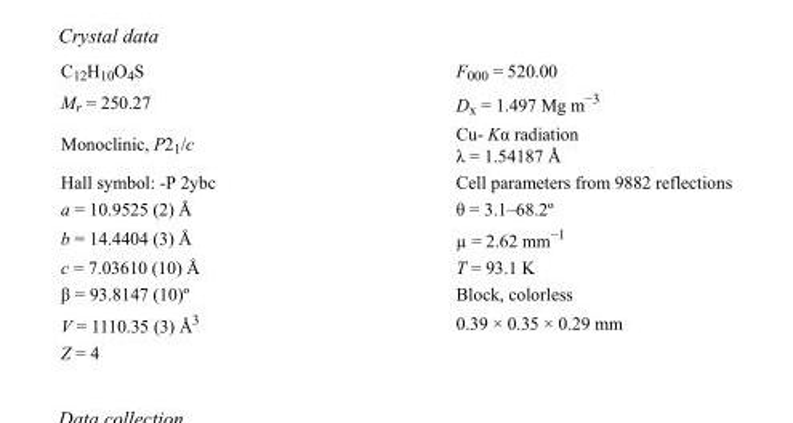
<table><tbody><tr><td>C<sub>12</sub>H<sub>10</sub>O<sub>4</sub>S</td><td>F000 = 520.00</td></tr><tr><td>M<sub>r</sub> = 250.27</td><td>D<sub>x</sub> = 1.497 Mg m<sup>−3</sup></td></tr><tr><td>Monoclinic, P2<sub>1</sub>/c</td><td>Cu- Kα radiation λ = 1.54187 Å</td></tr><tr><td>Hall symbol: -P 2ybc</td><td>Cell parameters from 9882 reflections</td></tr><tr><td>a = 10.9525 (2) Å</td><td>θ = 3.1–68.2º</td></tr><tr><td>b = 14.4404 (3) Å</td><td>µ = 2.62 mm<sup>−1</sup></td></tr><tr><td>c = 7.03610 (10) Å</td><td>T = 93.1 K</td></tr><tr><td>β = 93.8147 (10)º</td><td>Block, colorless</td></tr><tr><td>V = 1110.35 (3) Å<sup>3</sup></td><td>0.39 × 0.35 × 0.29 mm</td></tr><tr><td>Z = 4</td><td></td></tr></tbody></table>